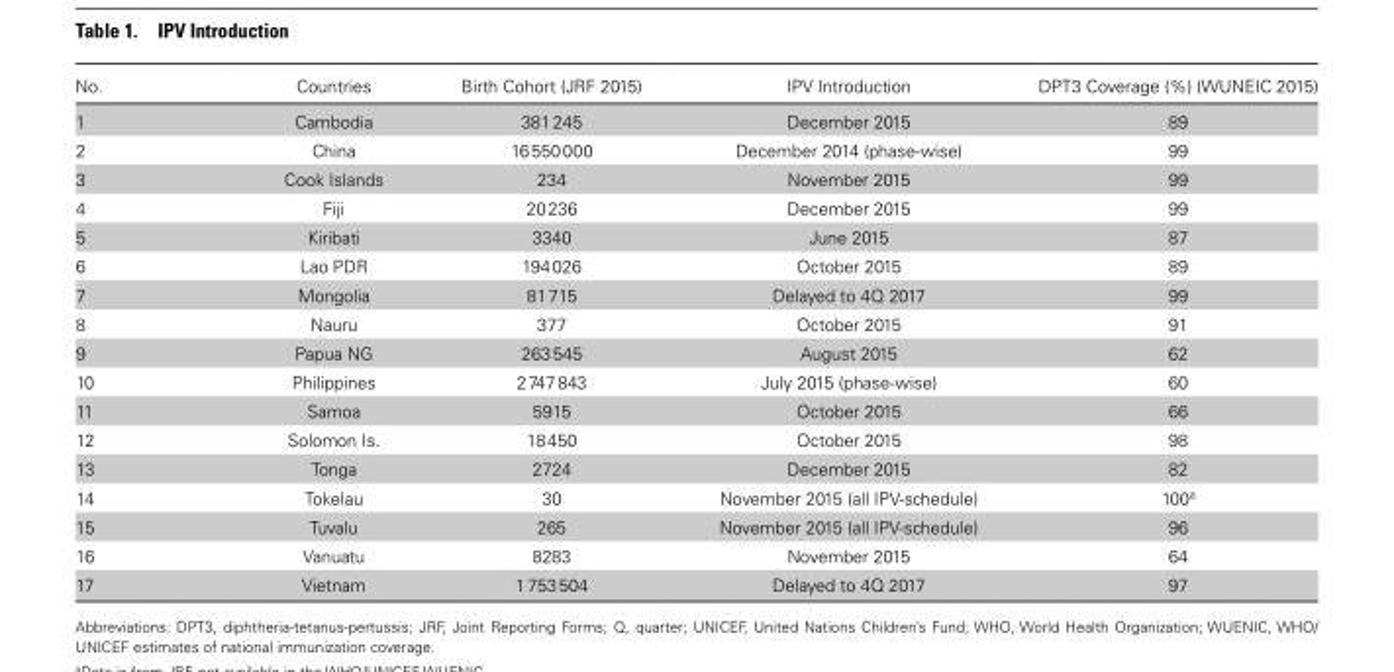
<table><thead><tr><td>No.</td><td>Countries</td><td>Birth Cohort (JRF 2015)</td><td>IPV Introduction</td><td>DPT3 Coverage (%) (WUNEIC 2015)</td></tr></thead><tbody><tr><td>1</td><td>Cambodia</td><td>381 245</td><td>December 2015</td><td>89</td></tr><tr><td>2</td><td>China</td><td>16 550 000</td><td>December 2014 (phase-wise)</td><td>99</td></tr><tr><td>3</td><td>Cook Islands</td><td>234</td><td>November 2015</td><td>99</td></tr><tr><td>4</td><td>Fiji</td><td>20 236</td><td>December 2015</td><td>99</td></tr><tr><td>5</td><td>Kiribati</td><td>3340</td><td>June 2015</td><td>87</td></tr><tr><td>6</td><td>Lao PDR</td><td>194 026</td><td>October 2015</td><td>89</td></tr><tr><td>7</td><td>Mongolia</td><td>81 715</td><td>Delayed to 4Q 2017</td><td>99</td></tr><tr><td>8</td><td>Nauru</td><td>377</td><td>October 2015</td><td>91</td></tr><tr><td>9</td><td>Papua NG</td><td>263 545</td><td>August 2015</td><td>62</td></tr><tr><td>10</td><td>Philippines</td><td>2 747 843</td><td>July 2015 (phase-wise)</td><td>60</td></tr><tr><td>11</td><td>Samoa</td><td>5915</td><td>October 2015</td><td>66</td></tr><tr><td>12</td><td>Solomon Is.</td><td>18 450</td><td>October 2015</td><td>98</td></tr><tr><td>13</td><td>Tonga</td><td>2724</td><td>December 2015</td><td>82</td></tr><tr><td>14</td><td>Tokelau</td><td>30</td><td>November 2015 (all IPV-schedule)</td><td>100<sup>a</sup></td></tr><tr><td>15</td><td>Tuvalu</td><td>265</td><td>November 2015 (all IPV-schedule)</td><td>96</td></tr><tr><td>16</td><td>Vanuatu</td><td>8283</td><td>November 2015</td><td>64</td></tr><tr><td>17</td><td>Vietnam</td><td>1 753 504</td><td>Delayed to 4Q 2017</td><td>97</td></tr></tbody></table>